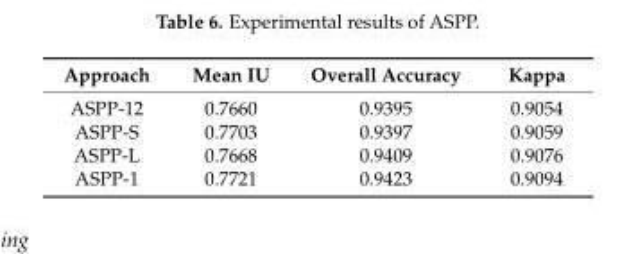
<table><thead><tr><td>Approach</td><td>Mean IU</td><td>Overall Accuracy</td><td>Kappa</td></tr></thead><tbody><tr><td>ASPP-12</td><td>0.7660</td><td>0.9395</td><td>0.9054</td></tr><tr><td>ASPP-S</td><td>0.7703</td><td>0.9397</td><td>0.9059</td></tr><tr><td>ASPP-L</td><td>0.7668</td><td>0.9409</td><td>0.9076</td></tr><tr><td>ASPP-1</td><td>0.7721</td><td>0.9423</td><td>0.9094</td></tr></tbody></table>